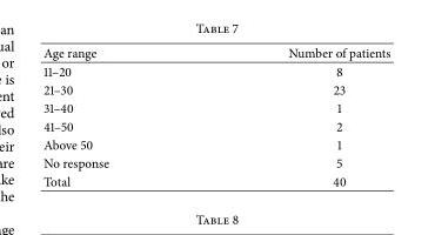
<table><thead><tr><td>Age range</td><td>Number of patients</td></tr></thead><tbody><tr><td>11–20</td><td>8</td></tr><tr><td>21–30</td><td>23</td></tr><tr><td>31–40</td><td>1</td></tr><tr><td>41–50</td><td>2</td></tr><tr><td>Above 50</td><td>1</td></tr><tr><td>No response</td><td>5</td></tr><tr><td>Total</td><td>40</td></tr></tbody></table>